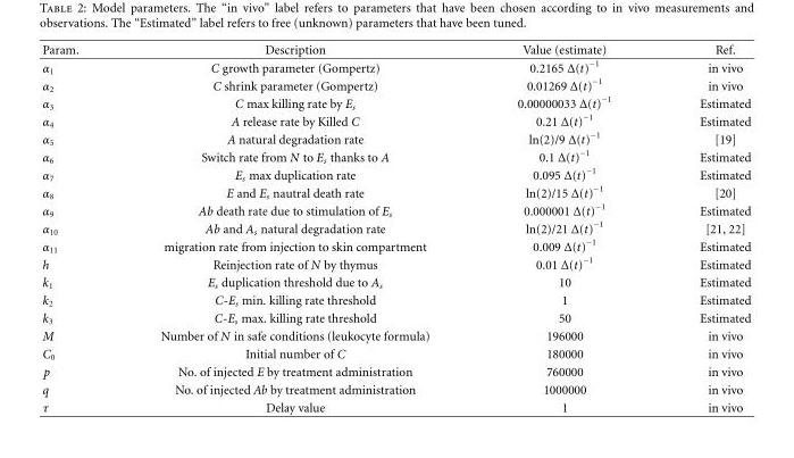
<table><thead><tr><td>Param.</td><td>Description</td><td>Value (estimate)</td><td>Ref.</td></tr></thead><tbody><tr><td>α<sub>1</sub></td><td>C growth parameter (Gompertz)</td><td>0.2165 Δ(t)<sup>−1</sup></td><td>in vivo</td></tr><tr><td>α<sub>2</sub></td><td>C shrink parameter (Gompertz)</td><td>0.01269 Δ(t)<sup>−1</sup></td><td>in vivo</td></tr><tr><td>α<sub>3</sub></td><td>C max killing rate by E<sub>s</sub></td><td>0.00000033 Δ(t)<sup>−1</sup></td><td>Estimated</td></tr><tr><td>α<sub>4</sub></td><td>A release rate by Killed C</td><td>0.21 Δ(t)<sup>−1</sup></td><td>Estimated</td></tr><tr><td>α<sub>5</sub></td><td>A natural degradation rate</td><td>ln(2)/9 Δ(t)<sup>−1</sup></td><td>[19]</td></tr><tr><td>α<sub>6</sub></td><td>Switch rate from N to E<sub>s</sub> thanks to A</td><td>0.1 Δ(t)<sup>−1</sup></td><td>Estimated</td></tr><tr><td>α<sub>7</sub></td><td>E<sub>s</sub> max duplication rate</td><td>0.095 Δ(t)<sup>−1</sup></td><td>Estimated</td></tr><tr><td>α<sub>8</sub></td><td>E and E<sub>s</sub> nautral death rate</td><td>ln(2)/15 Δ(t)<sup>−1</sup></td><td>[20]</td></tr><tr><td>α<sub>9</sub></td><td>Ab death rate due to stimulation of E<sub>s</sub></td><td>0.000001 Δ(t)<sup>−1</sup></td><td>Estimated</td></tr><tr><td>α<sub>10</sub></td><td>Ab and A<sub>s</sub> natural degradation rate</td><td>ln(2)/21 Δ(t)<sup>−1</sup></td><td>[21, 22]</td></tr><tr><td>α<sub>11</sub></td><td>migration rate from injection to skin compartment</td><td>0.009 Δ(t)<sup>−1</sup></td><td>Estimated</td></tr><tr><td>h</td><td>Reinjection rate of N by thymus</td><td>0.01 Δ(t)<sup>−1</sup></td><td>Estimated</td></tr><tr><td>k<sub>1</sub></td><td>E<sub>s</sub> duplication threshold due to A<sub>s</sub></td><td>10</td><td>Estimated</td></tr><tr><td>k<sub>2</sub></td><td>C-E<sub>s</sub> min. killing rate threshold</td><td>1</td><td>Estimated</td></tr><tr><td>k<sub>3</sub></td><td>C-E<sub>s</sub> max. killing rate threshold</td><td>50</td><td>Estimated</td></tr><tr><td>M</td><td>Number of N in safe conditions (leukocyte formula)</td><td>196000</td><td>in vivo</td></tr><tr><td>C<sub>0</sub></td><td>Initial number of C</td><td>180000</td><td>in vivo</td></tr><tr><td>p</td><td>No. of injected E by treatment administration</td><td>760000</td><td>in vivo</td></tr><tr><td>q</td><td>No. of injected Ab by treatment administration</td><td>1000000</td><td>in vivo</td></tr><tr><td>τ</td><td>Delay value</td><td>1</td><td>in vivo</td></tr></tbody></table>